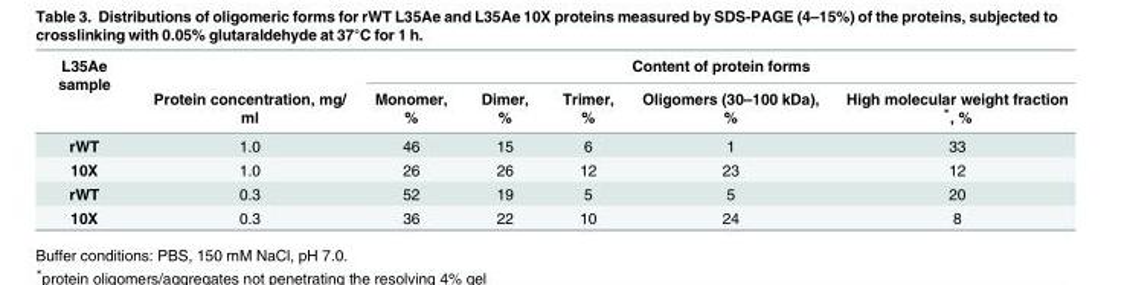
<table><thead><tr><td rowspan="2">L35Ae sample</td><td rowspan="2">Protein concentration, mg/ ml</td><td colspan="5">Content of protein forms</td></tr><tr><td>Monomer, %</td><td>Dimer, %</td><td>Trimer, %</td><td>Oligomers (30–100 kDa), %</td><td>High molecular weight fraction *, %</td></tr></thead><tbody><tr><td>rWT</td><td>1.0</td><td>46</td><td>15</td><td>6</td><td>1</td><td>33</td></tr><tr><td>10X</td><td>1.0</td><td>26</td><td>26</td><td>12</td><td>23</td><td>12</td></tr><tr><td>rWT</td><td>0.3</td><td>52</td><td>19</td><td>5</td><td>5</td><td>20</td></tr><tr><td>10X</td><td>0.3</td><td>36</td><td>22</td><td>10</td><td>24</td><td>8</td></tr></tbody></table>